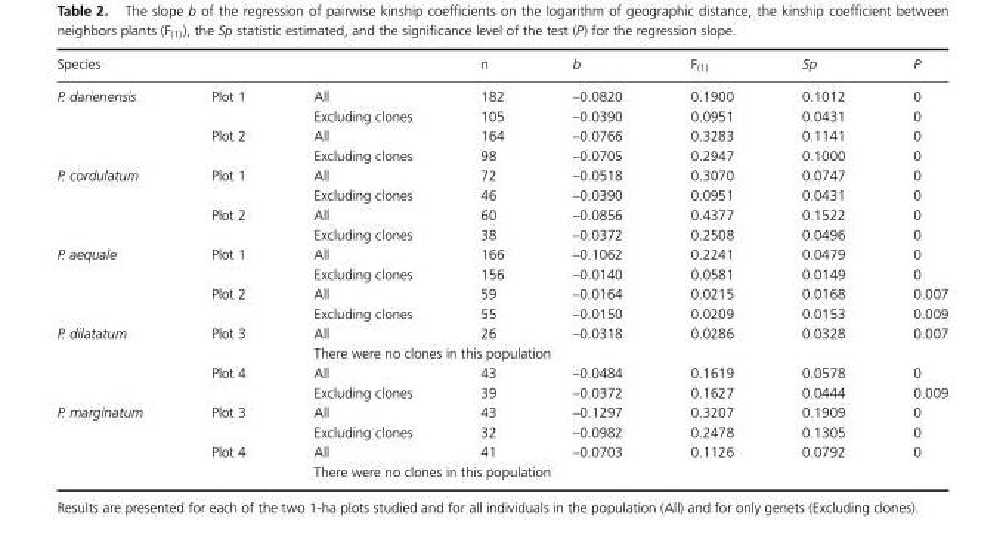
<table><thead><tr><td>Species</td><td></td><td></td><td>n</td><td>b</td><td>F<sub>(1)</sub></td><td>Sp</td><td>P</td></tr></thead><tbody><tr><td rowspan="4">P. darienensis</td><td>Plot 1</td><td>All</td><td>182</td><td>–0.0820</td><td>0.1900</td><td>0.1012</td><td>0</td></tr><tr><td></td><td>Excluding clones</td><td>105</td><td>–0.0390</td><td>0.0951</td><td>0.0431</td><td>0</td></tr><tr><td>Plot 2</td><td>All</td><td>164</td><td>–0.0766</td><td>0.3283</td><td>0.1141</td><td>0</td></tr><tr><td></td><td>Excluding clones</td><td>98</td><td>–0.0705</td><td>0.2947</td><td>0.1000</td><td>0</td></tr><tr><td rowspan="4">P. cordulatum</td><td>Plot 1</td><td>All</td><td>72</td><td>–0.0518</td><td>0.3070</td><td>0.0747</td><td>0</td></tr><tr><td></td><td>Excluding clones</td><td>46</td><td>–0.0390</td><td>0.0951</td><td>0.0431</td><td>0</td></tr><tr><td>Plot 2</td><td>All</td><td>60</td><td>–0.0856</td><td>0.4377</td><td>0.1522</td><td>0</td></tr><tr><td></td><td>Excluding clones</td><td>38</td><td>–0.0372</td><td>0.2508</td><td>0.0496</td><td>0</td></tr><tr><td rowspan="4">P. aequale</td><td>Plot 1</td><td>All</td><td>166</td><td>–0.1062</td><td>0.2241</td><td>0.0479</td><td>0</td></tr><tr><td></td><td>Excluding clones</td><td>156</td><td>–0.0140</td><td>0.0581</td><td>0.0149</td><td>0</td></tr><tr><td>Plot 2</td><td>All</td><td>59</td><td>–0.0164</td><td>0.0215</td><td>0.0168</td><td>0.007</td></tr><tr><td></td><td>Excluding clones</td><td>55</td><td>–0.0150</td><td>0.0209</td><td>0.0153</td><td>0.009</td></tr><tr><td rowspan="4">P. dilatatum</td><td>Plot 3</td><td>All</td><td>26</td><td>–0.0318</td><td>0.0286</td><td>0.0328</td><td>0.007</td></tr><tr><td></td><td colspan="6">There were no clones in this population</td></tr><tr><td>Plot 4</td><td>All</td><td>43</td><td>–0.0484</td><td>0.1619</td><td>0.0578</td><td>0</td></tr><tr><td></td><td>Excluding clones</td><td>39</td><td>–0.0372</td><td>0.1627</td><td>0.0444</td><td>0.009</td></tr><tr><td rowspan="4">P. marginatum</td><td>Plot 3</td><td>All</td><td>43</td><td>–0.1297</td><td>0.3207</td><td>0.1909</td><td>0</td></tr><tr><td></td><td>Excluding clones</td><td>32</td><td>–0.0982</td><td>0.2478</td><td>0.1305</td><td>0</td></tr><tr><td>Plot 4</td><td>All</td><td>41</td><td>–0.0703</td><td>0.1126</td><td>0.0792</td><td>0</td></tr><tr><td></td><td colspan="6">There were no clones in this population</td></tr></tbody></table>